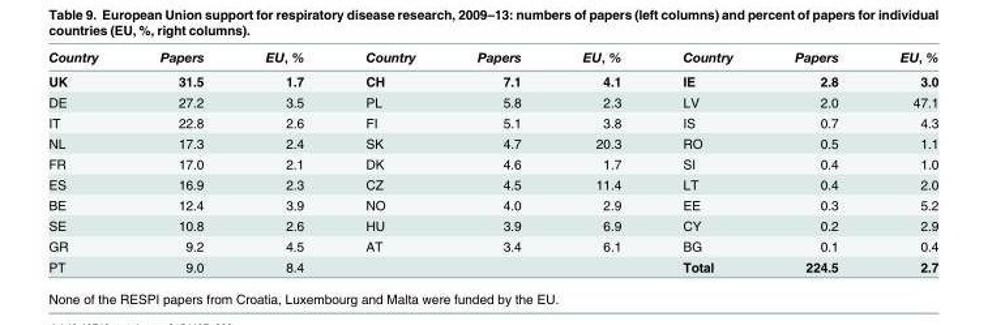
<table><thead><tr><td>Country</td><td>Papers</td><td>EU, %</td><td>Country</td><td>Papers</td><td>EU, %</td><td>Country</td><td>Papers</td><td>EU, %</td></tr></thead><tbody><tr><td>UK</td><td>31.5</td><td>1.7</td><td>CH</td><td>7.1</td><td>4.1</td><td>IE</td><td>2.8</td><td>3.0</td></tr><tr><td>DE</td><td>27.2</td><td>3.5</td><td>PL</td><td>5.8</td><td>2.3</td><td>LV</td><td>2.0</td><td>47.1</td></tr><tr><td>IT</td><td>22.8</td><td>2.6</td><td>FI</td><td>5.1</td><td>3.8</td><td>IS</td><td>0.7</td><td>4.3</td></tr><tr><td>NL</td><td>17.3</td><td>2.4</td><td>SK</td><td>4.7</td><td>20.3</td><td>RO</td><td>0.5</td><td>1.1</td></tr><tr><td>FR</td><td>17.0</td><td>2.1</td><td>DK</td><td>4.6</td><td>1.7</td><td>SI</td><td>0.4</td><td>1.0</td></tr><tr><td>ES</td><td>16.9</td><td>2.3</td><td>CZ</td><td>4.5</td><td>11.4</td><td>LT</td><td>0.4</td><td>2.0</td></tr><tr><td>BE</td><td>12.4</td><td>3.9</td><td>NO</td><td>4.0</td><td>2.9</td><td>EE</td><td>0.3</td><td>5.2</td></tr><tr><td>SE</td><td>10.8</td><td>2.6</td><td>HU</td><td>3.9</td><td>6.9</td><td>CY</td><td>0.2</td><td>2.9</td></tr><tr><td>GR</td><td>9.2</td><td>4.5</td><td>AT</td><td>3.4</td><td>6.1</td><td>BG</td><td>0.1</td><td>0.4</td></tr><tr><td>PT</td><td>9.0</td><td>8.4</td><td></td><td></td><td></td><td>Total</td><td>224.5</td><td>2.7</td></tr></tbody></table>